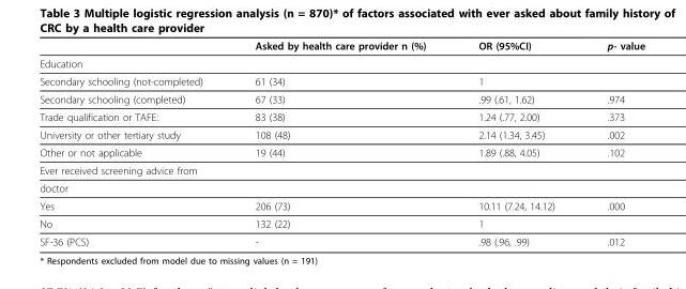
<table><thead><tr><td></td><td>Asked by health care provider n (%)</td><td>OR (95%CI)</td><td>p- value</td></tr></thead><tbody><tr><td colspan="4">Education</td></tr><tr><td>Secondary schooling (not-completed)</td><td>61 (34)</td><td>1</td><td></td></tr><tr><td>Secondary schooling (completed)</td><td>67 (33)</td><td>.99 (.61, 1.62)</td><td>.974</td></tr><tr><td>Trade qualification or TAFE:</td><td>83 (38)</td><td>1.24 (.77, 2.00)</td><td>.373</td></tr><tr><td>University or other tertiary study</td><td>108 (48)</td><td>2.14 (1.34, 3.45)</td><td>.002</td></tr><tr><td>Other or not applicable</td><td>19 (44)</td><td>1.89 (.88, 4.05)</td><td>.102</td></tr><tr><td colspan="4">Ever received screening advice from</td></tr><tr><td colspan="4">doctor</td></tr><tr><td>Yes</td><td>206 (73)</td><td>10.11 (7.24, 14.12)</td><td>.000</td></tr><tr><td>No</td><td>132 (22)</td><td>1</td><td></td></tr><tr><td>SF-36 (PCS)</td><td>-</td><td>.98 (.96, .99)</td><td>.012</td></tr></tbody></table>